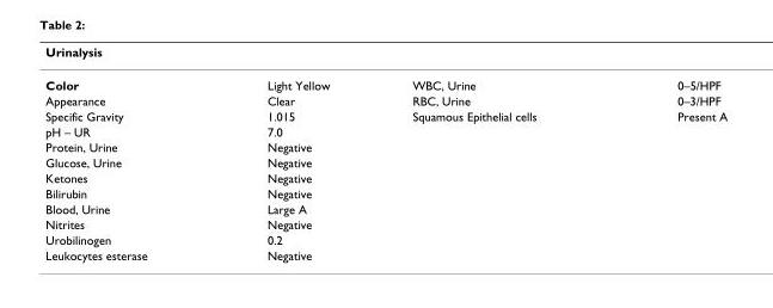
<table><thead><tr><td>Urinalysis</td><td></td><td></td><td></td></tr></thead><tbody><tr><td>Color</td><td>Light Yellow</td><td>WBC, Urine</td><td>0–5/HPF</td></tr><tr><td>Appearance</td><td>Clear</td><td>RBC, Urine</td><td>0–3/HPF</td></tr><tr><td>Specific Gravity</td><td>1.015</td><td>Squamous Epithelial cells</td><td>Present A</td></tr><tr><td>pH – UR</td><td>7.0</td><td></td><td></td></tr><tr><td>Protein, Urine</td><td>Negative</td><td></td><td></td></tr><tr><td>Glucose, Urine</td><td>Negative</td><td></td><td></td></tr><tr><td>Ketones</td><td>Negative</td><td></td><td></td></tr><tr><td>Bilirubin</td><td>Negative</td><td></td><td></td></tr><tr><td>Blood, Urine</td><td>Large A</td><td></td><td></td></tr><tr><td>Nitrites</td><td>Negative</td><td></td><td></td></tr><tr><td>Urobilinogen</td><td>0.2</td><td></td><td></td></tr><tr><td>Leukocytes esterase</td><td>Negative</td><td></td><td></td></tr></tbody></table>